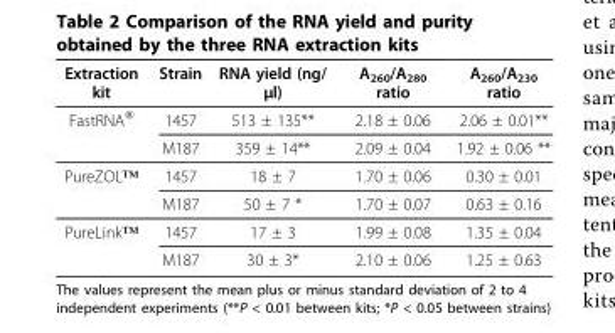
<table><thead><tr><td>Extraction kit</td><td>Strain</td><td>RNA yield (ng/ μl)</td><td>A<sub>260</sub>/A<sub>280</sub> ratio</td><td>A<sub>260</sub>/A<sub>230</sub> ratio</td></tr></thead><tbody><tr><td rowspan="2">FastRNA<sup>®</sup></td><td>1457</td><td>513 ± 135**</td><td>2.18 ± 0.06</td><td>2.06 ± 0.01**</td></tr><tr><td>M187</td><td>359 ± 14**</td><td>2.09 ± 0.04</td><td>1.92 ± 0.06 **</td></tr><tr><td rowspan="2">PureZOL™</td><td>1457</td><td>18 ± 7</td><td>1.70 ± 0.06</td><td>0.30 ± 0.01</td></tr><tr><td>M187</td><td>50 ± 7 *</td><td>1.70 ± 0.07</td><td>0.63 ± 0.16</td></tr><tr><td rowspan="2">PureLink™</td><td>1457</td><td>17 ± 3</td><td>1.99 ± 0.08</td><td>1.35 ± 0.04</td></tr><tr><td>M187</td><td>30 ± 3*</td><td>2.10 ± 0.06</td><td>1.25 ± 0.63</td></tr></tbody></table>